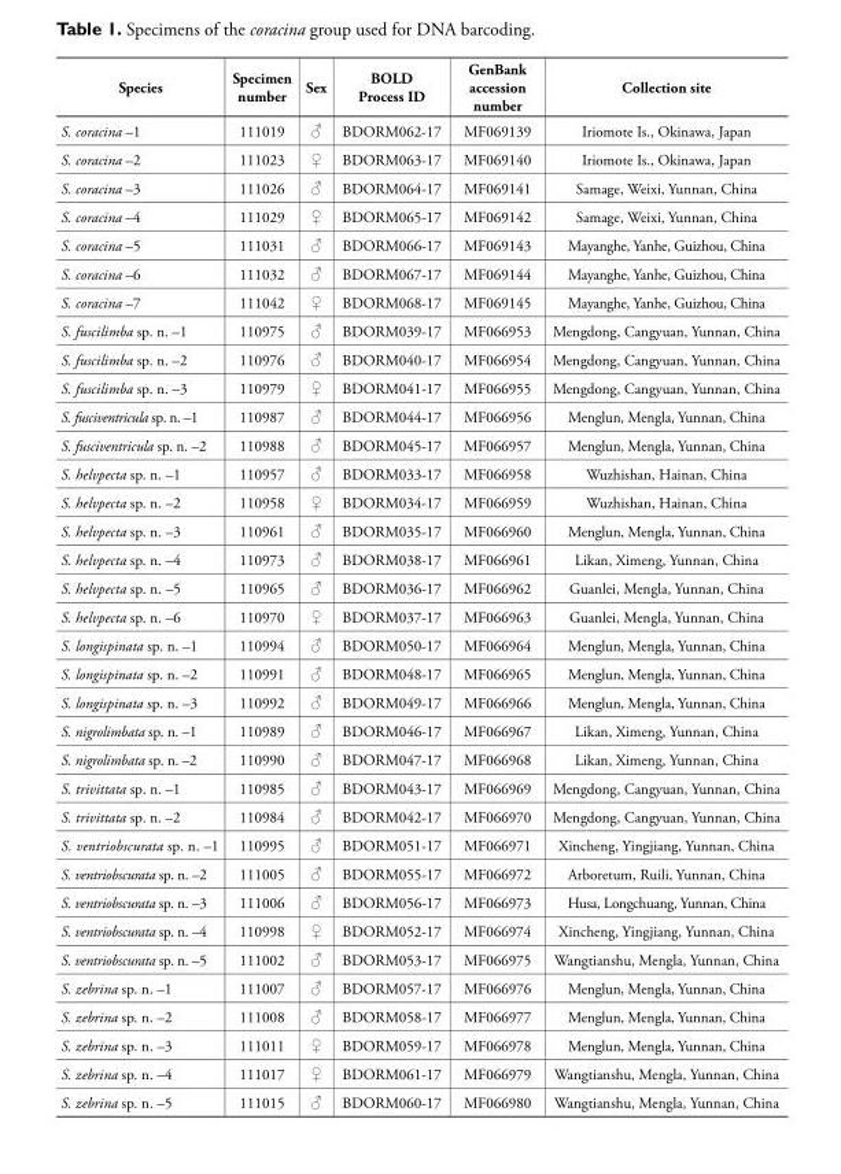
<table><thead><tr><td>Species</td><td>Specimen number</td><td>Sex</td><td>BOLD Process ID</td><td>GenBank accession number</td><td>Collection site</td></tr></thead><tbody><tr><td>S. coracina –1</td><td>111019</td><td>♂</td><td>BDORM062-17</td><td>MF069139</td><td>Iriomote Is., Okinawa, Japan</td></tr><tr><td>S. coracina –2</td><td>111023</td><td>♀</td><td>BDORM063-17</td><td>MF069140</td><td>Iriomote Is., Okinawa, Japan</td></tr><tr><td>S. coracina –3</td><td>111026</td><td>♂</td><td>BDORM064-17</td><td>MF069141</td><td>Samage, Weixi, Yunnan, China</td></tr><tr><td>S. coracina –4</td><td>111029</td><td>♀</td><td>BDORM065-17</td><td>MF069142</td><td>Samage, Weixi, Yunnan, China</td></tr><tr><td>S. coracina –5</td><td>111031</td><td>♂</td><td>BDORM066-17</td><td>MF069143</td><td>Mayanghe, Yanhe, Guizhou, China</td></tr><tr><td>S. coracina –6</td><td>111032</td><td>♂</td><td>BDORM067-17</td><td>MF069144</td><td>Mayanghe, Yanhe, Guizhou, China</td></tr><tr><td>S. coracina –7</td><td>111042</td><td>♀</td><td>BDORM068-17</td><td>MF069145</td><td>Mayanghe, Yanhe, Guizhou, China</td></tr><tr><td>S. fuscilimba sp. n. –1</td><td>110975</td><td>♂</td><td>BDORM039-17</td><td>MF066953</td><td>Mengdong, Cangyuan, Yunnan, China</td></tr><tr><td>S. fuscilimba sp. n. –2</td><td>110976</td><td>♂</td><td>BDORM040-17</td><td>MF066954</td><td>Mengdong, Cangyuan, Yunnan, China</td></tr><tr><td>S. fuscilimba sp. n. –3</td><td>110979</td><td>♀</td><td>BDORM041-17</td><td>MF066955</td><td>Mengdong, Cangyuan, Yunnan, China</td></tr><tr><td>S. fusciventricula sp. n. –1</td><td>110987</td><td>♂</td><td>BDORM044-17</td><td>MF066956</td><td>Menglun, Mengla, Yunnan, China</td></tr><tr><td>S. fusciventricula sp. n. –2</td><td>110988</td><td>♂</td><td>BDORM045-17</td><td>MF066957</td><td>Menglun, Mengla, Yunnan, China</td></tr><tr><td>S. helvpecta sp. n. –1</td><td>110957</td><td>♂</td><td>BDORM033-17</td><td>MF066958</td><td>Wuzhishan, Hainan, China</td></tr><tr><td>S. helvpecta sp. n. –2</td><td>110958</td><td>♀</td><td>BDORM034-17</td><td>MF066959</td><td>Wuzhishan, Hainan, China</td></tr><tr><td>S. helvpecta sp. n. –3</td><td>110961</td><td>♂</td><td>BDORM035-17</td><td>MF066960</td><td>Menglun, Mengla, Yunnan, China</td></tr><tr><td>S. helvpecta sp. n. –4</td><td>110973</td><td>♂</td><td>BDORM038-17</td><td>MF066961</td><td>Likan, Ximeng, Yunnan, China</td></tr><tr><td>S. helvpecta sp. n. –5</td><td>110965</td><td>♂</td><td>BDORM036-17</td><td>MF066962</td><td>Guanlei, Mengla, Yunnan, China</td></tr><tr><td>S. helvpecta sp. n. –6</td><td>110970</td><td>♀</td><td>BDORM037-17</td><td>MF066963</td><td>Guanlei, Mengla, Yunnan, China</td></tr><tr><td>S. longispinata sp. n. –1</td><td>110994</td><td>♂</td><td>BDORM050-17</td><td>MF066964</td><td>Menglun, Mengla, Yunnan, China</td></tr><tr><td>S. longispinata sp. n. –2</td><td>110991</td><td>♂</td><td>BDORM048-17</td><td>MF066965</td><td>Menglun, Mengla, Yunnan, China</td></tr><tr><td>S. longispinata sp. n. –3</td><td>110992</td><td>♂</td><td>BDORM049-17</td><td>MF066966</td><td>Menglun, Mengla, Yunnan, China</td></tr><tr><td>S. nigrolimbata sp. n. –1</td><td>110989</td><td>♂</td><td>BDORM046-17</td><td>MF066967</td><td>Likan, Ximeng, Yunnan, China</td></tr><tr><td>S. nigrolimbata sp. n. –2</td><td>110990</td><td>♂</td><td>BDORM047-17</td><td>MF066968</td><td>Likan, Ximeng, Yunnan, China</td></tr><tr><td>S. trivittata sp. n. –1</td><td>110985</td><td>♂</td><td>BDORM043-17</td><td>MF066969</td><td>Mengdong, Cangyuan, Yunnan, China</td></tr><tr><td>S. trivittata sp. n. –2</td><td>110984</td><td>♂</td><td>BDORM042-17</td><td>MF066970</td><td>Mengdong, Cangyuan, Yunnan, China</td></tr><tr><td>S. ventriobscurata sp. n. –1</td><td>110995</td><td>♂</td><td>BDORM051-17</td><td>MF066971</td><td>Xincheng, Yingjiang, Yunnan, China</td></tr><tr><td>S. ventriobscurata sp. n. –2</td><td>111005</td><td>♂</td><td>BDORM055-17</td><td>MF066972</td><td>Arboretum, Ruili, Yunnan, China</td></tr><tr><td>S. ventriobscurata sp. n. –3</td><td>111006</td><td>♂</td><td>BDORM056-17</td><td>MF066973</td><td>Husa, Longchuang, Yunnan, China</td></tr><tr><td>S. ventriobscurata sp. n. –4</td><td>110998</td><td>♀</td><td>BDORM052-17</td><td>MF066974</td><td>Xincheng, Yingjiang, Yunnan, China</td></tr><tr><td>S. ventriobscurata sp. n. –5</td><td>111002</td><td>♂</td><td>BDORM053-17</td><td>MF066975</td><td>Wangtianshu, Mengla, Yunnan, China</td></tr><tr><td>S. zebrina sp. n. –1</td><td>111007</td><td>♂</td><td>BDORM057-17</td><td>MF066976</td><td>Menglun, Mengla, Yunnan, China</td></tr><tr><td>S. zebrina sp. n. –2</td><td>111008</td><td>♂</td><td>BDORM058-17</td><td>MF066977</td><td>Menglun, Mengla, Yunnan, China</td></tr><tr><td>S. zebrina sp. n. –3</td><td>111011</td><td>♀</td><td>BDORM059-17</td><td>MF066978</td><td>Menglun, Mengla, Yunnan, China</td></tr><tr><td>S. zebrina sp. n. –4</td><td>111017</td><td>♀</td><td>BDORM061-17</td><td>MF066979</td><td>Wangtianshu, Mengla, Yunnan, China</td></tr><tr><td>S. zebrina sp. n. –5</td><td>111015</td><td>♂</td><td>BDORM060-17</td><td>MF066980</td><td>Wangtianshu, Mengla, Yunnan, China</td></tr></tbody></table>